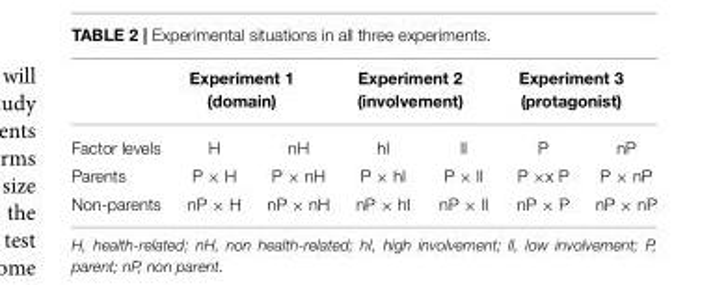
<table><thead><tr><td rowspan="2">Factor levels</td><td colspan="2">Experiment 1 (domain)</td><td colspan="2">Experiment 2 (involvement)</td><td colspan="2">Experiment 3 (protagonist)</td></tr><tr><td>H</td><td>nH</td><td>hI</td><td>lI</td><td>P</td><td>nP</td></tr></thead><tbody><tr><td>Parents</td><td>P × H</td><td>P × nH</td><td>P × hI</td><td>P × lI</td><td>P ×x P</td><td>P × nP</td></tr><tr><td>Non-parents</td><td>nP × H</td><td>nP × nH</td><td>nP × hI</td><td>nP × lI</td><td>nP × P</td><td>nP × nP</td></tr></tbody></table>